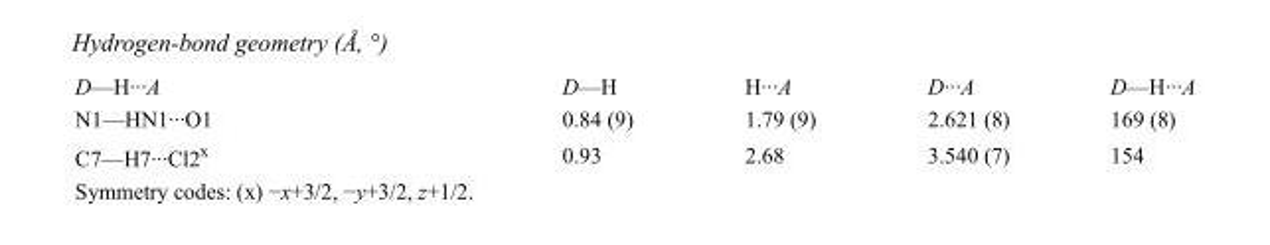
<table><tbody><tr><td>D—H···A</td><td>D—H</td><td>H···A</td><td>D···A</td><td>D—H···A</td></tr><tr><td>N1—HN1···O1</td><td>0.84 (9)</td><td>1.79 (9)</td><td>2.621 (8)</td><td>169 (8)</td></tr><tr><td>C7—H7···Cl2<sup>x</sup></td><td>0.93</td><td>2.68</td><td>3.540 (7)</td><td>154</td></tr></tbody></table>